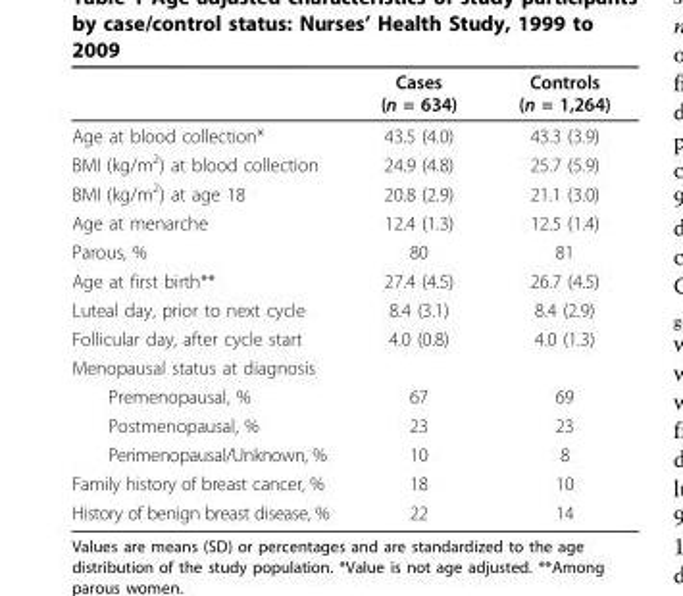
<table><thead><tr><td></td><td>Cases (n = 634)</td><td>Controls (n = 1,264)</td></tr></thead><tbody><tr><td>Age at blood collection*</td><td>43.5 (4.0)</td><td>43.3 (3.9)</td></tr><tr><td>BMI (kg/m<sup>2</sup>) at blood collection</td><td>24.9 (4.8)</td><td>25.7 (5.9)</td></tr><tr><td>BMI (kg/m<sup>2</sup>) at age 18</td><td>20.8 (2.9)</td><td>21.1 (3.0)</td></tr><tr><td>Age at menarche</td><td>12.4 (1.3)</td><td>12.5 (1.4)</td></tr><tr><td>Parous, %</td><td>80</td><td>81</td></tr><tr><td>Age at first birth**</td><td>27.4 (4.5)</td><td>26.7 (4.5)</td></tr><tr><td>Luteal day, prior to next cycle</td><td>8.4 (3.1)</td><td>8.4 (2.9)</td></tr><tr><td>Follicular day, after cycle start</td><td>4.0 (0.8)</td><td>4.0 (1.3)</td></tr><tr><td colspan="3">Menopausal status at diagnosis</td></tr><tr><td>Premenopausal, %</td><td>67</td><td>69</td></tr><tr><td>Postmenopausal, %</td><td>23</td><td>23</td></tr><tr><td>Perimenopausal/Unknown, %</td><td>10</td><td>8</td></tr><tr><td>Family history of breast cancer, %</td><td>18</td><td>10</td></tr><tr><td>History of benign breast disease, %</td><td>22</td><td>14</td></tr></tbody></table>